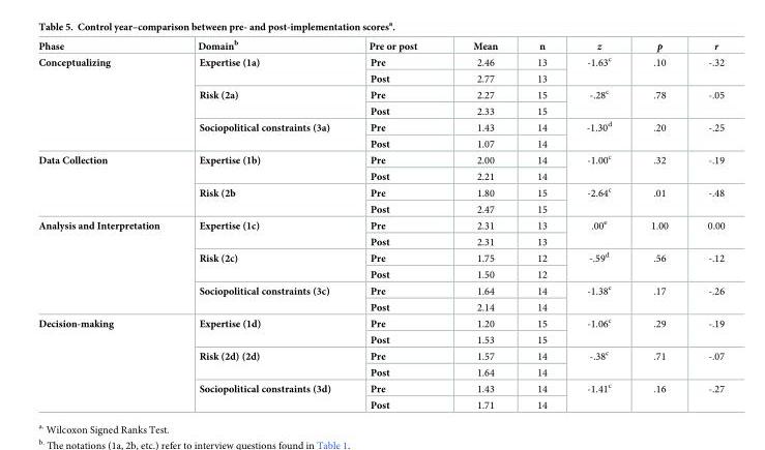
<table><thead><tr><td>Phase</td><td>Domain<sup>b</sup></td><td>Pre or post</td><td>Mean</td><td>n</td><td>z</td><td>p</td><td>r</td></tr></thead><tbody><tr><td rowspan="6">Conceptualizing</td><td rowspan="2">Expertise (1a)</td><td>Pre</td><td>2.46</td><td>13</td><td rowspan="2">-1.63<sup>c</sup></td><td rowspan="2">.10</td><td rowspan="2">-.32</td></tr><tr><td>Post</td><td>2.77</td><td>13</td></tr><tr><td rowspan="2">Risk (2a)</td><td>Pre</td><td>2.27</td><td>15</td><td rowspan="2">-.28<sup>c</sup></td><td rowspan="2">.78</td><td rowspan="2">-.05</td></tr><tr><td>Post</td><td>2.33</td><td>15</td></tr><tr><td rowspan="2">Sociopolitical constraints (3a)</td><td>Pre</td><td>1.43</td><td>14</td><td rowspan="2">-1.30<sup>d</sup></td><td rowspan="2">.20</td><td rowspan="2">-.25</td></tr><tr><td>Post</td><td>1.07</td><td>14</td></tr><tr><td rowspan="4">Data Collection</td><td rowspan="2">Expertise (1b)</td><td>Pre</td><td>2.00</td><td>14</td><td rowspan="2">-1.00<sup>c</sup></td><td rowspan="2">.32</td><td rowspan="2">-.19</td></tr><tr><td>Post</td><td>2.21</td><td>14</td></tr><tr><td rowspan="2">Risk (2b</td><td>Pre</td><td>1.80</td><td>15</td><td rowspan="2">-2.64<sup>c</sup></td><td rowspan="2">.01</td><td rowspan="2">-.48</td></tr><tr><td>Post</td><td>2.47</td><td>15</td></tr><tr><td rowspan="6">Analysis and Interpretation</td><td rowspan="2">Expertise (1c)</td><td>Pre</td><td>2.31</td><td>13</td><td rowspan="2">.00<sup>e</sup></td><td rowspan="2">1.00</td><td rowspan="2">0.00</td></tr><tr><td>Post</td><td>2.31</td><td>13</td></tr><tr><td rowspan="2">Risk (2c)</td><td>Pre</td><td>1.75</td><td>12</td><td rowspan="2">-.59<sup>d</sup></td><td rowspan="2">.56</td><td rowspan="2">-.12</td></tr><tr><td>Post</td><td>1.50</td><td>12</td></tr><tr><td rowspan="2">Sociopolitical constraints (3c)</td><td>Pre</td><td>1.64</td><td>14</td><td rowspan="2">-1.38<sup>c</sup></td><td rowspan="2">.17</td><td rowspan="2">-.26</td></tr><tr><td>Post</td><td>2.14</td><td>14</td></tr><tr><td rowspan="6">Decision-making</td><td rowspan="2">Expertise (1d)</td><td>Pre</td><td>1.20</td><td>15</td><td rowspan="2">-1.06<sup>c</sup></td><td rowspan="2">.29</td><td rowspan="2">-.19</td></tr><tr><td>Post</td><td>1.53</td><td>15</td></tr><tr><td rowspan="2">Risk (2d) (2d)</td><td>Pre</td><td>1.57</td><td>14</td><td rowspan="2">-.38<sup>c</sup></td><td rowspan="2">.71</td><td rowspan="2">-.07</td></tr><tr><td>Post</td><td>1.64</td><td>14</td></tr><tr><td rowspan="2">Sociopolitical constraints (3d)</td><td>Pre</td><td>1.43</td><td>14</td><td rowspan="2">-1.41<sup>c</sup></td><td rowspan="2">.16</td><td rowspan="2">-.27</td></tr><tr><td>Post</td><td>1.71</td><td>14</td></tr></tbody></table>